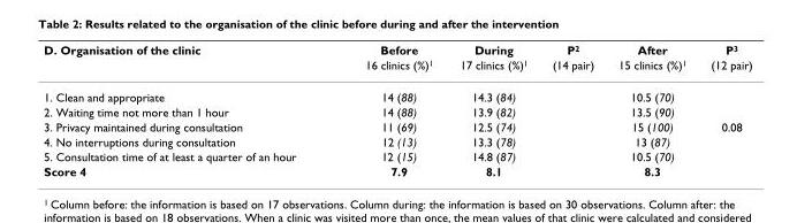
<table><thead><tr><td rowspan="2">D. Organisation of the clinic</td><td rowspan="2">Before 16 clinics (%)1</td><td rowspan="2">During 17 clinics (%)1</td><td rowspan="2">P2 (14 pair)</td><td rowspan="2">After 15 clinics (%)1</td><td rowspan="2">P3 (12 pair)</td></tr><tr></tr></thead><tbody><tr><td>1. Clean and appropriate</td><td>14 (88)</td><td>14.3 (84)</td><td></td><td>10.5 (70)</td><td></td></tr><tr><td>2. Waiting time not more than 1 hour</td><td>14 (88)</td><td>13.9 (82)</td><td></td><td>13.5 (90)</td><td></td></tr><tr><td>3. Privacy maintained during consultation</td><td>11 (69)</td><td>12.5 (74)</td><td></td><td>15 (100)</td><td>0.08</td></tr><tr><td>4. No interruptions during consultation</td><td>12 (13)</td><td>13.3 (78)</td><td></td><td>13 (87)</td><td></td></tr><tr><td>5. Consultation time of at least a quarter of an hour</td><td>12 (15)</td><td>14.8 (87)</td><td></td><td>10.5 (70)</td><td></td></tr><tr><td>Score 4</td><td>7.9</td><td>8.1</td><td></td><td>8.3</td><td></td></tr></tbody></table>